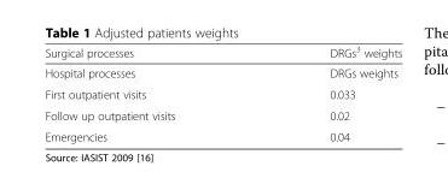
<table><thead><tr><td>Surgical processes</td><td>DRGs<sup>3</sup> weights</td></tr></thead><tbody><tr><td>Hospital processes</td><td>DRGs weights</td></tr><tr><td>First outpatient visits</td><td>0.033</td></tr><tr><td>Follow up outpatient visits</td><td>0.02</td></tr><tr><td>Emergencies</td><td>0.04</td></tr></tbody></table>